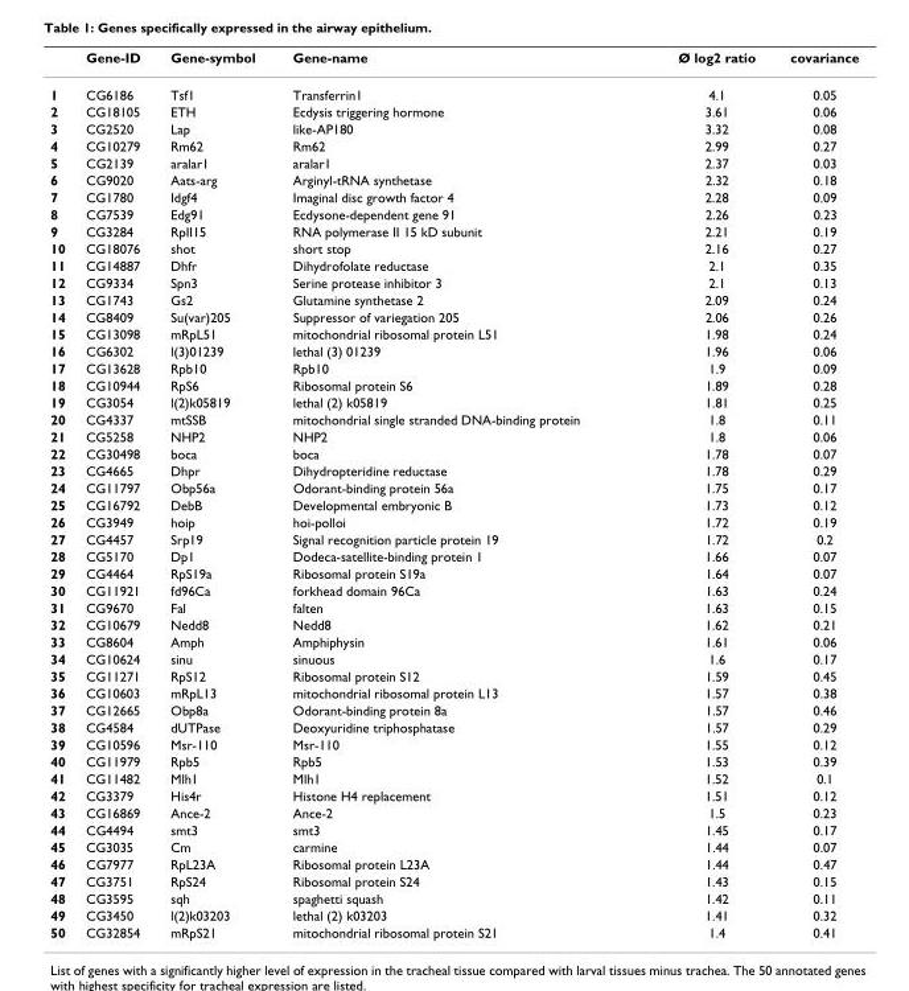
<table><thead><tr><td></td><td>Gene-ID</td><td>Gene-symbol</td><td>Gene-name</td><td>Ø log2 ratio</td><td>covariance</td></tr></thead><tbody><tr><td>1</td><td>CG6186</td><td>Tsf1</td><td>Transferrin1</td><td>4.1</td><td>0.05</td></tr><tr><td>2</td><td>CG18105</td><td>ETH</td><td>Ecdysis triggering hormone</td><td>3.61</td><td>0.06</td></tr><tr><td>3</td><td>CG2520</td><td>Lap</td><td>like-AP180</td><td>3.32</td><td>0.08</td></tr><tr><td>4</td><td>CG10279</td><td>Rm62</td><td>Rm62</td><td>2.99</td><td>0.27</td></tr><tr><td>5</td><td>CG2139</td><td>aralar1</td><td>aralar1</td><td>2.37</td><td>0.03</td></tr><tr><td>6</td><td>CG9020</td><td>Aats-arg</td><td>Arginyl-tRNA synthetase</td><td>2.32</td><td>0.18</td></tr><tr><td>7</td><td>CG1780</td><td>Idgf4</td><td>Imaginal disc growth factor 4</td><td>2.28</td><td>0.09</td></tr><tr><td>8</td><td>CG7539</td><td>Edg91</td><td>Ecdysone-dependent gene 91</td><td>2.26</td><td>0.23</td></tr><tr><td>9</td><td>CG3284</td><td>RpII15</td><td>RNA polymerase II 15 kD subunit</td><td>2.21</td><td>0.19</td></tr><tr><td>10</td><td>CG18076</td><td>shot</td><td>short stop</td><td>2.16</td><td>0.27</td></tr><tr><td>11</td><td>CG14887</td><td>Dhfr</td><td>Dihydrofolate reductase</td><td>2.1</td><td>0.35</td></tr><tr><td>12</td><td>CG9334</td><td>Spn3</td><td>Serine protease inhibitor 3</td><td>2.1</td><td>0.13</td></tr><tr><td>13</td><td>CG1743</td><td>Gs2</td><td>Glutamine synthetase 2</td><td>2.09</td><td>0.24</td></tr><tr><td>14</td><td>CG8409</td><td>Su(var)205</td><td>Suppressor of variegation 205</td><td>2.06</td><td>0.26</td></tr><tr><td>15</td><td>CG13098</td><td>mRpL51</td><td>mitochondrial ribosomal protein L51</td><td>1.98</td><td>0.24</td></tr><tr><td>16</td><td>CG6302</td><td>l(3)01239</td><td>lethal (3) 01239</td><td>1.96</td><td>0.06</td></tr><tr><td>17</td><td>CG13628</td><td>Rpb10</td><td>Rpb10</td><td>1.9</td><td>0.09</td></tr><tr><td>18</td><td>CG10944</td><td>RpS6</td><td>Ribosomal protein S6</td><td>1.89</td><td>0.28</td></tr><tr><td>19</td><td>CG3054</td><td>l(2)k05819</td><td>lethal (2) k05819</td><td>1.81</td><td>0.25</td></tr><tr><td>20</td><td>CG4337</td><td>mtSSB</td><td>mitochondrial single stranded DNA-binding protein</td><td>1.8</td><td>0.11</td></tr><tr><td>21</td><td>CG5258</td><td>NHP2</td><td>NHP2</td><td>1.8</td><td>0.06</td></tr><tr><td>22</td><td>CG30498</td><td>boca</td><td>boca</td><td>1.78</td><td>0.07</td></tr><tr><td>23</td><td>CG4665</td><td>Dhpr</td><td>Dihydropteridine reductase</td><td>1.78</td><td>0.29</td></tr><tr><td>24</td><td>CG11797</td><td>Obp56a</td><td>Odorant-binding protein 56a</td><td>1.75</td><td>0.17</td></tr><tr><td>25</td><td>CG16792</td><td>DebB</td><td>Developmental embryonic B</td><td>1.73</td><td>0.12</td></tr><tr><td>26</td><td>CG3949</td><td>hoip</td><td>hoi-polloi</td><td>1.72</td><td>0.19</td></tr><tr><td>27</td><td>CG4457</td><td>Srp19</td><td>Signal recognition particle protein 19</td><td>1.72</td><td>0.2</td></tr><tr><td>28</td><td>CG5170</td><td>Dp1</td><td>Dodeca-satellite-binding protein 1</td><td>1.66</td><td>0.07</td></tr><tr><td>29</td><td>CG4464</td><td>RpS19a</td><td>Ribosomal protein S19a</td><td>1.64</td><td>0.07</td></tr><tr><td>30</td><td>CG11921</td><td>fd96Ca</td><td>forkhead domain 96Ca</td><td>1.63</td><td>0.24</td></tr><tr><td>31</td><td>CG9670</td><td>Fal</td><td>falten</td><td>1.63</td><td>0.15</td></tr><tr><td>32</td><td>CG10679</td><td>Nedd8</td><td>Nedd8</td><td>1.62</td><td>0.21</td></tr><tr><td>33</td><td>CG8604</td><td>Amph</td><td>Amphiphysin</td><td>1.61</td><td>0.06</td></tr><tr><td>34</td><td>CG10624</td><td>sinu</td><td>sinuous</td><td>1.6</td><td>0.17</td></tr><tr><td>35</td><td>CG11271</td><td>RpS12</td><td>Ribosomal protein S12</td><td>1.59</td><td>0.45</td></tr><tr><td>36</td><td>CG10603</td><td>mRpL13</td><td>mitochondrial ribosomal protein L13</td><td>1.57</td><td>0.38</td></tr><tr><td>37</td><td>CG12665</td><td>Obp8a</td><td>Odorant-binding protein 8a</td><td>1.57</td><td>0.46</td></tr><tr><td>38</td><td>CG4584</td><td>dUTPase</td><td>Deoxyuridine triphosphatase</td><td>1.57</td><td>0.29</td></tr><tr><td>39</td><td>CG10596</td><td>Msr-110</td><td>Msr-110</td><td>1.55</td><td>0.12</td></tr><tr><td>40</td><td>CG11979</td><td>Rpb5</td><td>Rpb5</td><td>1.53</td><td>0.39</td></tr><tr><td>41</td><td>CG11482</td><td>Mlh1</td><td>Mlh1</td><td>1.52</td><td>0.1</td></tr><tr><td>42</td><td>CG3379</td><td>His4r</td><td>Histone H4 replacement</td><td>1.51</td><td>0.12</td></tr><tr><td>43</td><td>CG16869</td><td>Ance-2</td><td>Ance-2</td><td>1.5</td><td>0.23</td></tr><tr><td>44</td><td>CG4494</td><td>smt3</td><td>smt3</td><td>1.45</td><td>0.17</td></tr><tr><td>45</td><td>CG3035</td><td>Cm</td><td>carmine</td><td>1.44</td><td>0.07</td></tr><tr><td>46</td><td>CG7977</td><td>RpL23A</td><td>Ribosomal protein L23A</td><td>1.44</td><td>0.47</td></tr><tr><td>47</td><td>CG3751</td><td>RpS24</td><td>Ribosomal protein S24</td><td>1.43</td><td>0.15</td></tr><tr><td>48</td><td>CG3595</td><td>sqh</td><td>spaghetti squash</td><td>1.42</td><td>0.11</td></tr><tr><td>49</td><td>CG3450</td><td>l(2)k03203</td><td>lethal (2) k03203</td><td>1.41</td><td>0.32</td></tr><tr><td>50</td><td>CG32854</td><td>mRpS21</td><td>mitochondrial ribosomal protein S21</td><td>1.4</td><td>0.41</td></tr></tbody></table>